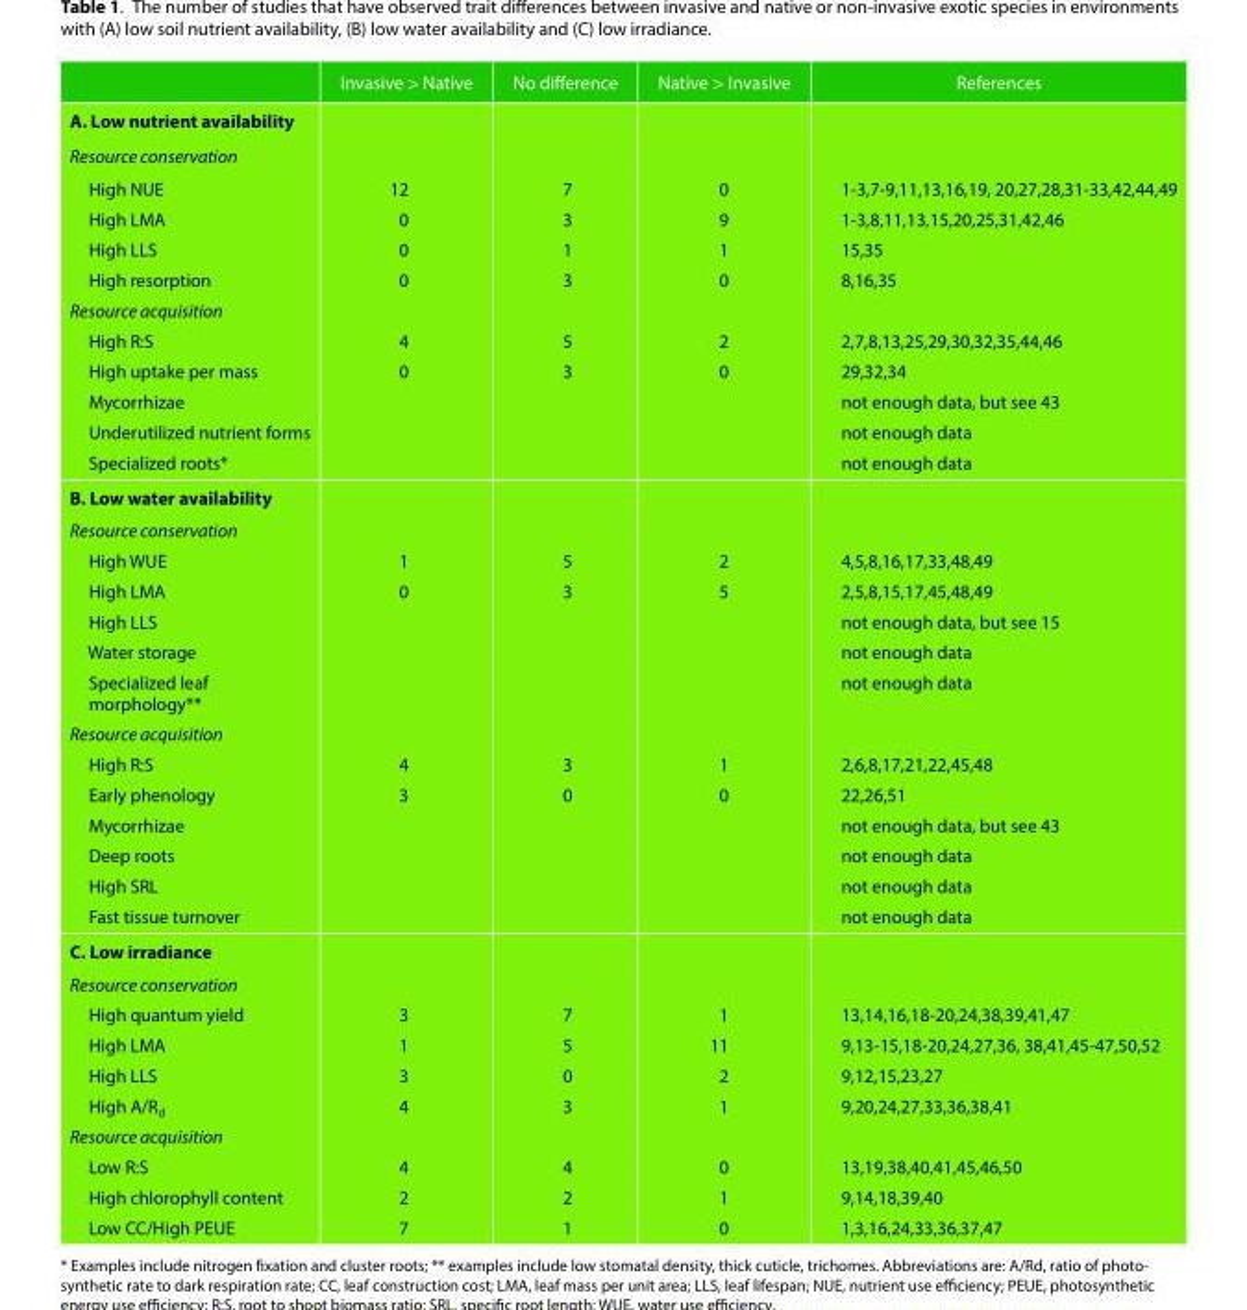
<table><thead><tr><td></td><td>Invasive &gt; Native</td><td>No difference</td><td>Native &gt; Invasive</td><td>References</td></tr></thead><tbody><tr><td colspan="5">A. Low nutrient availability</td></tr><tr><td colspan="5">Resource conservation</td></tr><tr><td>High NUE</td><td>12</td><td>7</td><td>0</td><td>1-3,7-9,11,13,16,19, 20,27,28,31-33,42,44,49</td></tr><tr><td>High LMA</td><td>0</td><td>3</td><td>9</td><td>1-3,8,11,13,15,20,25,31,42,46</td></tr><tr><td>High LLS</td><td>0</td><td>1</td><td>1</td><td>15,35</td></tr><tr><td>High resorption</td><td>0</td><td>3</td><td>0</td><td>8,16,35</td></tr><tr><td colspan="5">Resource acquisition</td></tr><tr><td>High R:S</td><td>4</td><td>5</td><td>2</td><td>2,7,8,13,25,29,30,32,35,44,46</td></tr><tr><td>High uptake per mass</td><td>0</td><td>3</td><td>0</td><td>29,32,34</td></tr><tr><td>Mycorrhizae</td><td></td><td></td><td></td><td>not enough data, but see 43</td></tr><tr><td>Underutilized nutrient forms</td><td></td><td></td><td></td><td>not enough data</td></tr><tr><td>Specialized roots*</td><td></td><td></td><td></td><td>not enough data</td></tr><tr><td colspan="5">B. Low water availability</td></tr><tr><td colspan="5">Resource conservation</td></tr><tr><td>High WUE</td><td>1</td><td>5</td><td>2</td><td>4,5,8,16,17,33,48,49</td></tr><tr><td>High LMA</td><td>0</td><td>3</td><td>5</td><td>2,5,8,15,17,45,48,49</td></tr><tr><td>High LLS</td><td></td><td></td><td></td><td>not enough data, but see 15</td></tr><tr><td>Water storage</td><td></td><td></td><td></td><td>not enough data</td></tr><tr><td>Specialized leaf morphology**</td><td></td><td></td><td></td><td>not enough data</td></tr><tr><td colspan="5">Resource acquisition</td></tr><tr><td>High R:S</td><td>4</td><td>3</td><td>1</td><td>2,6,8,17,21,22,45,48</td></tr><tr><td>Early phenology</td><td>3</td><td>0</td><td>0</td><td>22,26,51</td></tr><tr><td>Mycorrhizae</td><td></td><td></td><td></td><td>not enough data, but see 43</td></tr><tr><td>Deep roots</td><td></td><td></td><td></td><td>not enough data</td></tr><tr><td>High SRL</td><td></td><td></td><td></td><td>not enough data</td></tr><tr><td>Fast tissue turnover</td><td></td><td></td><td></td><td>not enough data</td></tr><tr><td colspan="5">C. Low irradiance</td></tr><tr><td colspan="5">Resource conservation</td></tr><tr><td>High quantum yield</td><td>3</td><td>7</td><td>1</td><td>13,14,16,18-20,24,38,39,41,47</td></tr><tr><td>High LMA</td><td>1</td><td>5</td><td>11</td><td>9,13-15,18-20,24,27,36, 38,41,45-47,50,52</td></tr><tr><td>High LLS</td><td>3</td><td>0</td><td>2</td><td>9,12,15,23,27</td></tr><tr><td>High A/R<sub>d</sub></td><td>4</td><td>3</td><td>1</td><td>9,20,24,27,33,36,38,41</td></tr><tr><td colspan="5">Resource acquisition</td></tr><tr><td>Low R:S</td><td>4</td><td>4</td><td>0</td><td>13,19,38,40,41,45,46,50</td></tr><tr><td>High chlorophyll content</td><td>2</td><td>2</td><td>1</td><td>9,14,18,39,40</td></tr><tr><td>Low CC/High PEUE</td><td>7</td><td>1</td><td>0</td><td>1,3,16,24,33,36,37,47</td></tr></tbody></table>